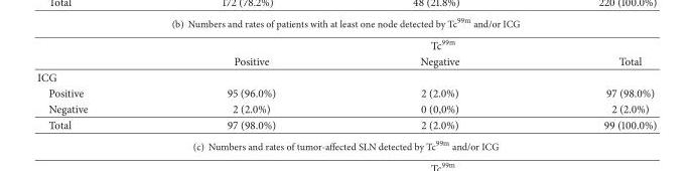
<table><thead><tr><td rowspan="2"></td><td colspan="3">Tc<sup>99m</sup></td></tr><tr><td>Positive</td><td>Negative</td><td>Total</td></tr></thead><tbody><tr><td colspan="4">ICG</td></tr><tr><td>Positive</td><td>95 (96.0%)</td><td>2 (2.0%)</td><td>97 (98.0%)</td></tr><tr><td>Negative</td><td>2 (2.0%)</td><td>0 (0,0%)</td><td>2 (2.0%)</td></tr><tr><td>Total</td><td>97 (98.0%)</td><td>2 (2.0%)</td><td>99 (100.0%)</td></tr></tbody></table>